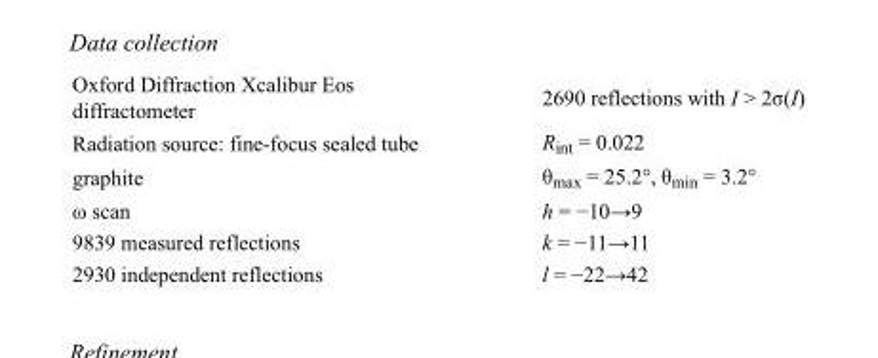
<table><tbody><tr><td>Oxford Diffraction Xcalibur Eos diffractometer</td><td>2690 reflections with I &gt; 2σ(I)</td></tr><tr><td>Radiation source: fine-focus sealed tube</td><td>R<sub>int</sub> = 0.022</td></tr><tr><td>graphite</td><td>θ<sub>max</sub> = 25.2°, θ<sub>min</sub> = 3.2°</td></tr><tr><td>ω scan</td><td>h = −10→9</td></tr><tr><td>9839 measured reflections</td><td>k = −11→11</td></tr><tr><td>2930 independent reflections</td><td>l = −22→42</td></tr></tbody></table>